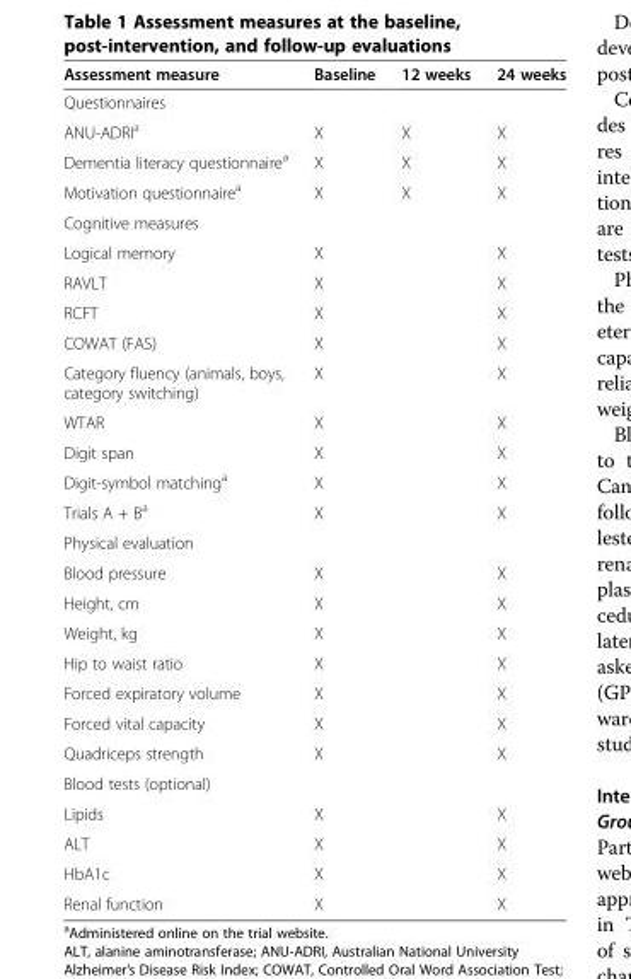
<table><thead><tr><td>Assessment measure</td><td>Baseline</td><td>12 weeks</td><td>24 weeks</td></tr></thead><tbody><tr><td colspan="4">Questionnaires</td></tr><tr><td>ANU-ADRI<sup>a</sup></td><td>X</td><td>X</td><td>X</td></tr><tr><td>Dementia literacy questionnaire<sup>a</sup></td><td>X</td><td>X</td><td>X</td></tr><tr><td>Motivation questionnaire<sup>a</sup></td><td>X</td><td>X</td><td>X</td></tr><tr><td colspan="4">Cognitive measures</td></tr><tr><td>Logical memory</td><td>X</td><td></td><td>X</td></tr><tr><td>RAVLT</td><td>X</td><td></td><td>X</td></tr><tr><td>RCFT</td><td>X</td><td></td><td>X</td></tr><tr><td>COWAT (FAS)</td><td>X</td><td></td><td>X</td></tr><tr><td>Category fluency (animals, boys, category switching)</td><td>X</td><td></td><td>X</td></tr><tr><td>WTAR</td><td>X</td><td></td><td>X</td></tr><tr><td>Digit span</td><td>X</td><td></td><td>X</td></tr><tr><td>Digit-symbol matching<sup>a</sup></td><td>X</td><td></td><td>X</td></tr><tr><td>Trials A + B<sup>a</sup></td><td>X</td><td></td><td>X</td></tr><tr><td colspan="4">Physical evaluation</td></tr><tr><td>Blood pressure</td><td>X</td><td></td><td>X</td></tr><tr><td>Height, cm</td><td>X</td><td></td><td>X</td></tr><tr><td>Weight, kg</td><td>X</td><td></td><td>X</td></tr><tr><td>Hip to waist ratio</td><td>X</td><td></td><td>X</td></tr><tr><td>Forced expiratory volume</td><td>X</td><td></td><td>X</td></tr><tr><td>Forced vital capacity</td><td>X</td><td></td><td>X</td></tr><tr><td>Quadriceps strength</td><td>X</td><td></td><td>X</td></tr><tr><td colspan="4">Blood tests (optional)</td></tr><tr><td>Lipids</td><td>X</td><td></td><td>X</td></tr><tr><td>ALT</td><td>X</td><td></td><td>X</td></tr><tr><td>HbA1c</td><td>X</td><td></td><td>X</td></tr><tr><td>Renal function</td><td>X</td><td></td><td>X</td></tr></tbody></table>